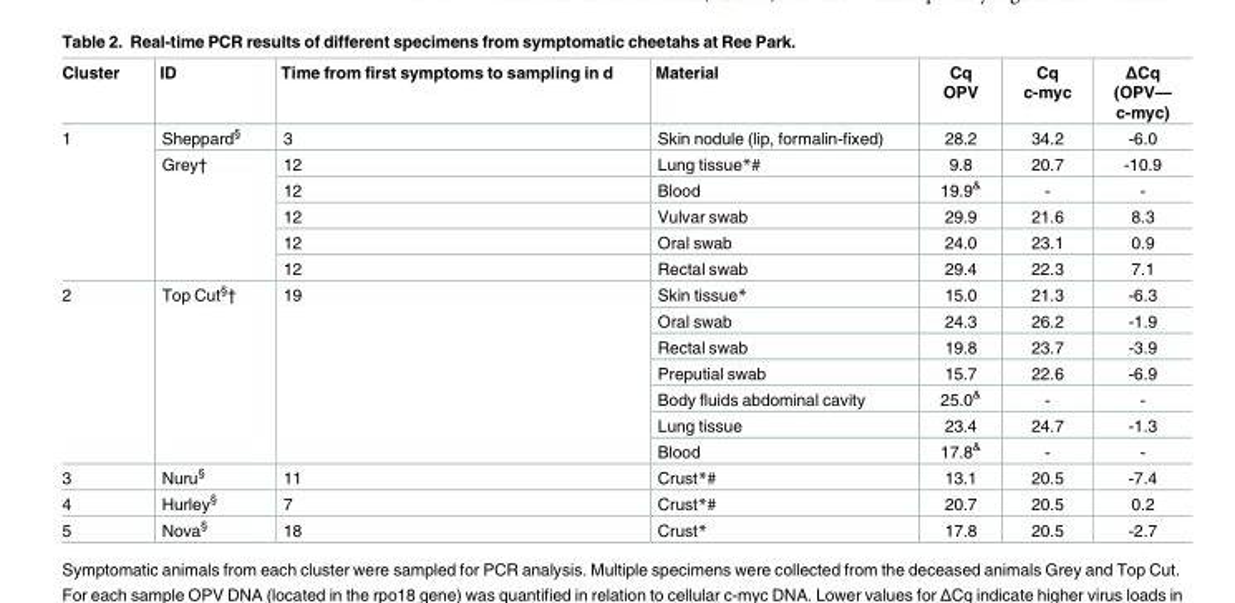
<table><thead><tr><td>Cluster</td><td>ID</td><td>Time from first symptoms to sampling in d</td><td>Material</td><td>Cq OPV</td><td>Cq c-myc</td><td>ΔCq (OPV— c-myc)</td></tr></thead><tbody><tr><td rowspan="6">1</td><td>Sheppard<sup>§</sup></td><td>3</td><td>Skin nodule (lip, formalin-fixed)</td><td>28.2</td><td>34.2</td><td>-6.0</td></tr><tr><td rowspan="5">Grey†</td><td>12</td><td>Lung tissue*#</td><td>9.8</td><td>20.7</td><td>-10.9</td></tr><tr><td>12</td><td>Blood</td><td>19.9<sup>&amp;</sup></td><td>-</td><td>-</td></tr><tr><td>12</td><td>Vulvar swab</td><td>29.9</td><td>21.6</td><td>8.3</td></tr><tr><td>12</td><td>Oral swab</td><td>24.0</td><td>23.1</td><td>0.9</td></tr><tr><td>12</td><td>Rectal swab</td><td>29.4</td><td>22.3</td><td>7.1</td></tr><tr><td rowspan="7">2</td><td rowspan="7">Top Cut<sup>§</sup>†</td><td rowspan="7">19</td><td>Skin tissue*</td><td>15.0</td><td>21.3</td><td>-6.3</td></tr><tr><td>Oral swab</td><td>24.3</td><td>26.2</td><td>-1.9</td></tr><tr><td>Rectal swab</td><td>19.8</td><td>23.7</td><td>-3.9</td></tr><tr><td>Preputial swab</td><td>15.7</td><td>22.6</td><td>-6.9</td></tr><tr><td>Body fluids abdominal cavity</td><td>25.0<sup>&amp;</sup></td><td>-</td><td>-</td></tr><tr><td>Lung tissue</td><td>23.4</td><td>24.7</td><td>-1.3</td></tr><tr><td>Blood</td><td>17.8<sup>&amp;</sup></td><td>-</td><td>-</td></tr><tr><td>3</td><td>Nuru<sup>§</sup></td><td>11</td><td>Crust*#</td><td>13.1</td><td>20.5</td><td>-7.4</td></tr><tr><td>4</td><td>Hurley<sup>§</sup></td><td>7</td><td>Crust*#</td><td>20.7</td><td>20.5</td><td>0.2</td></tr><tr><td>5</td><td>Nova<sup>§</sup></td><td>18</td><td>Crust*</td><td>17.8</td><td>20.5</td><td>-2.7</td></tr></tbody></table>